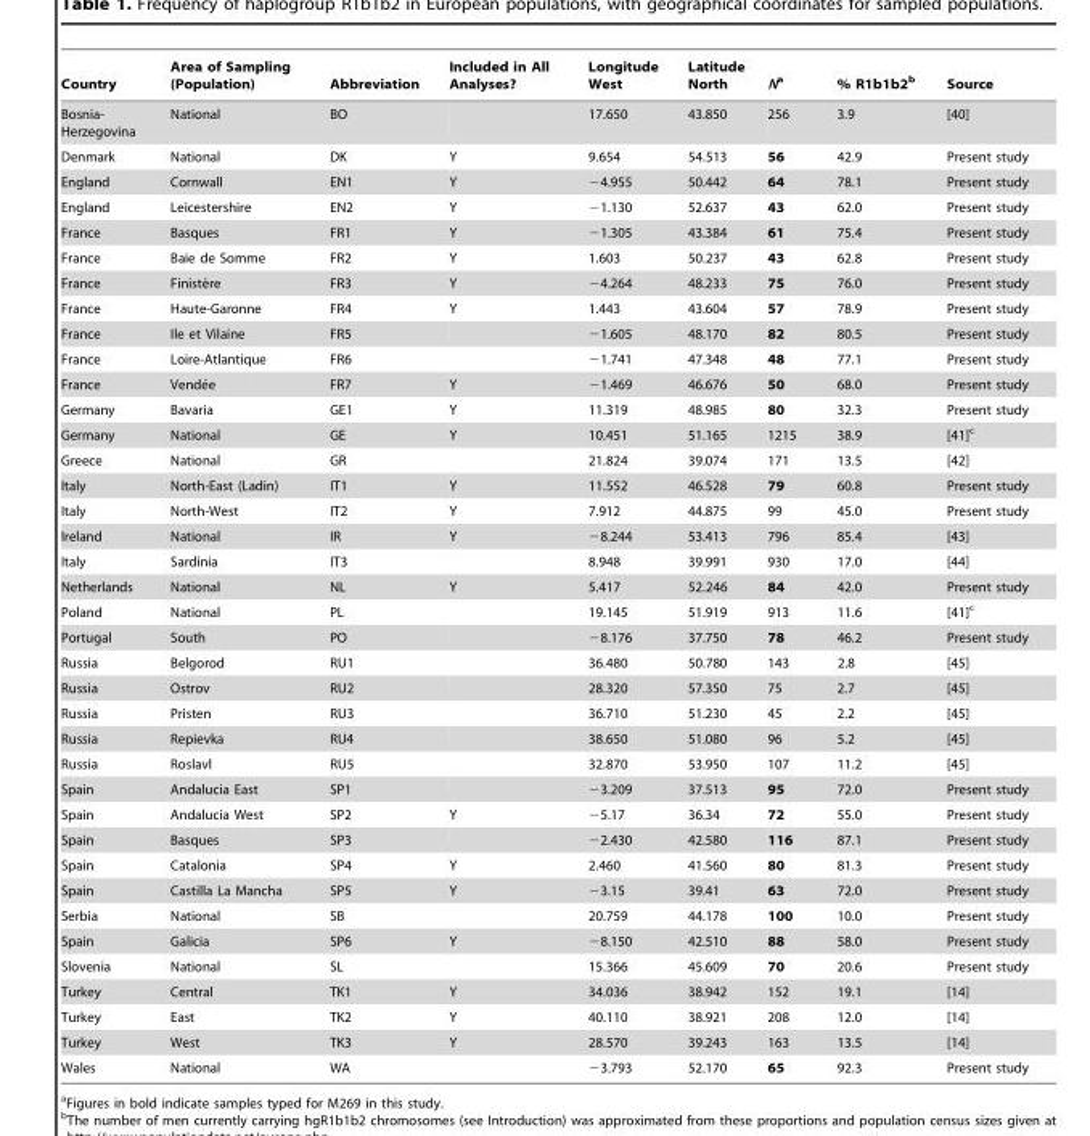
<table><thead><tr><td>Country</td><td>Area of Sampling (Population)</td><td>Abbreviation</td><td>Included in All Analyses?</td><td>Longitude West</td><td>Latitude North</td><td>Na</td><td>% R1b1b2<sup>b</sup></td><td>Source</td></tr></thead><tbody><tr><td>Bosnia- Herzegovina</td><td>National</td><td>BO</td><td></td><td>17.650</td><td>43.850</td><td>256</td><td>3.9</td><td>[40]</td></tr><tr><td>Denmark</td><td>National</td><td>DK</td><td>Y</td><td>9.654</td><td>54.513</td><td>56</td><td>42.9</td><td>Present study</td></tr><tr><td>England</td><td>Cornwall</td><td>EN1</td><td>Y</td><td>−4.955</td><td>50.442</td><td>64</td><td>78.1</td><td>Present study</td></tr><tr><td>England</td><td>Leicestershire</td><td>EN2</td><td>Y</td><td>−1.130</td><td>52.637</td><td>43</td><td>62.0</td><td>Present study</td></tr><tr><td>France</td><td>Basques</td><td>FR1</td><td>Y</td><td>−1.305</td><td>43.384</td><td>61</td><td>75.4</td><td>Present study</td></tr><tr><td>France</td><td>Baie de Somme</td><td>FR2</td><td>Y</td><td>1.603</td><td>50.237</td><td>43</td><td>62.8</td><td>Present study</td></tr><tr><td>France</td><td>Finiste`re</td><td>FR3</td><td>Y</td><td>−4.264</td><td>48.233</td><td>75</td><td>76.0</td><td>Present study</td></tr><tr><td>France</td><td>Haute-Garonne</td><td>FR4</td><td>Y</td><td>1.443</td><td>43.604</td><td>57</td><td>78.9</td><td>Present study</td></tr><tr><td>France</td><td>Ile et Vilaine</td><td>FR5</td><td></td><td>−1.605</td><td>48.170</td><td>82</td><td>80.5</td><td>Present study</td></tr><tr><td>France</td><td>Loire-Atlantique</td><td>FR6</td><td></td><td>−1.741</td><td>47.348</td><td>48</td><td>77.1</td><td>Present study</td></tr><tr><td>France</td><td>Vende´e</td><td>FR7</td><td>Y</td><td>−1.469</td><td>46.676</td><td>50</td><td>68.0</td><td>Present study</td></tr><tr><td>Germany</td><td>Bavaria</td><td>GE1</td><td>Y</td><td>11.319</td><td>48.985</td><td>80</td><td>32.3</td><td>Present study</td></tr><tr><td>Germany</td><td>National</td><td>GE</td><td>Y</td><td>10.451</td><td>51.165</td><td>1215</td><td>38.9</td><td>[41]c</td></tr><tr><td>Greece</td><td>National</td><td>GR</td><td></td><td>21.824</td><td>39.074</td><td>171</td><td>13.5</td><td>[42]</td></tr><tr><td>Italy</td><td>North-East (Ladin)</td><td>IT1</td><td>Y</td><td>11.552</td><td>46.528</td><td>79</td><td>60.8</td><td>Present study</td></tr><tr><td>Italy</td><td>North-West</td><td>IT2</td><td>Y</td><td>7.912</td><td>44.875</td><td>99</td><td>45.0</td><td>Present study</td></tr><tr><td>Ireland</td><td>National</td><td>IR</td><td>Y</td><td>−8.244</td><td>53.413</td><td>796</td><td>85.4</td><td>[43]</td></tr><tr><td>Italy</td><td>Sardinia</td><td>IT3</td><td></td><td>8.948</td><td>39.991</td><td>930</td><td>17.0</td><td>[44]</td></tr><tr><td>Netherlands</td><td>National</td><td>NL</td><td>Y</td><td>5.417</td><td>52.246</td><td>84</td><td>42.0</td><td>Present study</td></tr><tr><td>Poland</td><td>National</td><td>PL</td><td></td><td>19.145</td><td>51.919</td><td>913</td><td>11.6</td><td>[41]c</td></tr><tr><td>Portugal</td><td>South</td><td>PO</td><td></td><td>−8.176</td><td>37.750</td><td>78</td><td>46.2</td><td>Present study</td></tr><tr><td>Russia</td><td>Belgorod</td><td>RU1</td><td></td><td>36.480</td><td>50.780</td><td>143</td><td>2.8</td><td>[45]</td></tr><tr><td>Russia</td><td>Ostrov</td><td>RU2</td><td></td><td>28.320</td><td>57.350</td><td>75</td><td>2.7</td><td>[45]</td></tr><tr><td>Russia</td><td>Pristen</td><td>RU3</td><td></td><td>36.710</td><td>51.230</td><td>45</td><td>2.2</td><td>[45]</td></tr><tr><td>Russia</td><td>Repievka</td><td>RU4</td><td></td><td>38.650</td><td>51.080</td><td>96</td><td>5.2</td><td>[45]</td></tr><tr><td>Russia</td><td>Roslavl</td><td>RU5</td><td></td><td>32.870</td><td>53.950</td><td>107</td><td>11.2</td><td>[45]</td></tr><tr><td>Spain</td><td>Andalucia East</td><td>SP1</td><td></td><td>−3.209</td><td>37.513</td><td>95</td><td>72.0</td><td>Present study</td></tr><tr><td>Spain</td><td>Andalucia West</td><td>SP2</td><td>Y</td><td>−5.17</td><td>36.34</td><td>72</td><td>55.0</td><td>Present study</td></tr><tr><td>Spain</td><td>Basques</td><td>SP3</td><td></td><td>−2.430</td><td>42.580</td><td>116</td><td>87.1</td><td>Present study</td></tr><tr><td>Spain</td><td>Catalonia</td><td>SP4</td><td>Y</td><td>2.460</td><td>41.560</td><td>80</td><td>81.3</td><td>Present study</td></tr><tr><td>Spain</td><td>Castilla La Mancha</td><td>SP5</td><td>Y</td><td>−3.15</td><td>39.41</td><td>63</td><td>72.0</td><td>Present study</td></tr><tr><td>Serbia</td><td>National</td><td>SB</td><td></td><td>20.759</td><td>44.178</td><td>100</td><td>10.0</td><td>Present study</td></tr><tr><td>Spain</td><td>Galicia</td><td>SP6</td><td>Y</td><td>−8.150</td><td>42.510</td><td>88</td><td>58.0</td><td>Present study</td></tr><tr><td>Slovenia</td><td>National</td><td>SL</td><td></td><td>15.366</td><td>45.609</td><td>70</td><td>20.6</td><td>Present study</td></tr><tr><td>Turkey</td><td>Central</td><td>TK1</td><td>Y</td><td>34.036</td><td>38.942</td><td>152</td><td>19.1</td><td>[14]</td></tr><tr><td>Turkey</td><td>East</td><td>TK2</td><td>Y</td><td>40.110</td><td>38.921</td><td>208</td><td>12.0</td><td>[14]</td></tr><tr><td>Turkey</td><td>West</td><td>TK3</td><td>Y</td><td>28.570</td><td>39.243</td><td>163</td><td>13.5</td><td>[14]</td></tr><tr><td>Wales</td><td>National</td><td>WA</td><td></td><td>−3.793</td><td>52.170</td><td>65</td><td>92.3</td><td>Present study</td></tr></tbody></table>